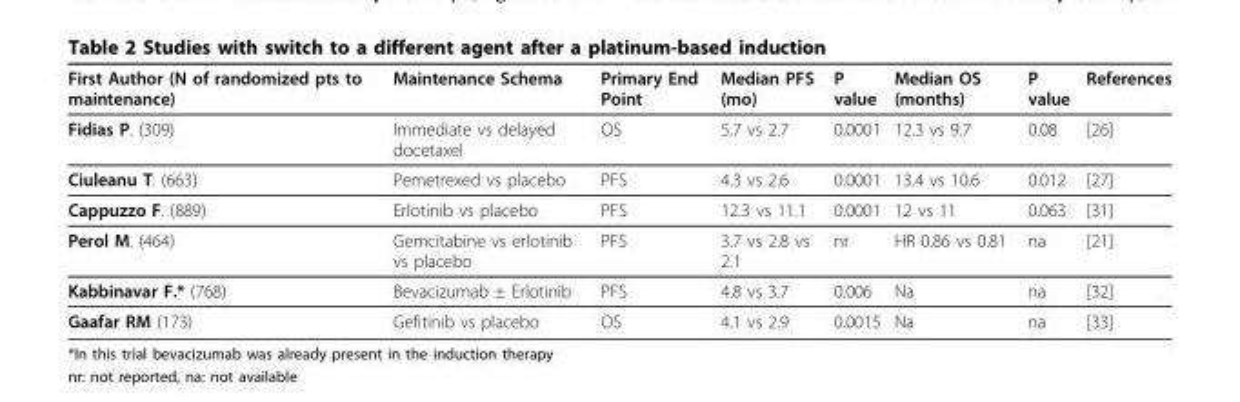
<table><thead><tr><td>First Author (N of randomized pts to maintenance)</td><td>Maintenance Schema</td><td>Primary End Point</td><td>Median PFS (mo)</td><td>P value</td><td>Median OS (months)</td><td>P value</td><td>References</td></tr></thead><tbody><tr><td>Fidias P. (309)</td><td>Immediate vs delayed docetaxel</td><td>OS</td><td>5.7 vs 2.7</td><td>0.0001</td><td>12.3 vs 9.7</td><td>0.08</td><td>[26]</td></tr><tr><td>Ciuleanu T. (663)</td><td>Pemetrexed vs placebo</td><td>PFS</td><td>4.3 vs 2.6</td><td>0.0001</td><td>13.4 vs 10.6</td><td>0.012</td><td>[27]</td></tr><tr><td>Cappuzzo F. (889)</td><td>Erlotinib vs placebo</td><td>PFS</td><td>12.3 vs 11.1</td><td>0.0001</td><td>12 vs 11</td><td>0.063</td><td>[31]</td></tr><tr><td>Perol M. (464)</td><td>Gemcitabine vs erlotinib vs placebo</td><td>PFS</td><td>3.7 vs 2.8 vs 2.1</td><td>nr</td><td>HR 0.86 vs 0.81</td><td>na</td><td>[21]</td></tr><tr><td>Kabbinavar F.* (768)</td><td>Bevacizumab ± Erlotinib</td><td>PFS</td><td>4.8 vs 3.7</td><td>0.006</td><td>Na</td><td>na</td><td>[32]</td></tr><tr><td>Gaafar RM (173)</td><td>Gefitinib vs placebo</td><td>OS</td><td>4.1 vs 2.9</td><td>0.0015</td><td>Na</td><td>na</td><td>[33]</td></tr></tbody></table>